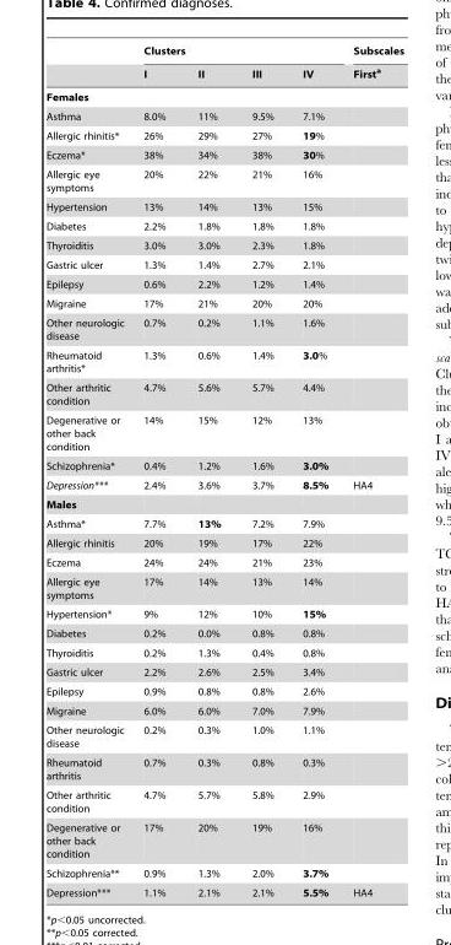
<table><thead><tr><td rowspan="2"></td><td colspan="4">Clusters</td><td rowspan="2">Subscales First<sup>a</sup></td></tr><tr><td>I</td><td>II</td><td>III</td><td>IV</td></tr></thead><tbody><tr><td colspan="6">Females</td></tr><tr><td>Asthma</td><td>8.0%</td><td>11%</td><td>9.5%</td><td>7.1%</td><td></td></tr><tr><td>Allergic rhinitis*</td><td>26%</td><td>29%</td><td>27%</td><td>19%</td><td></td></tr><tr><td>Eczema*</td><td>38%</td><td>34%</td><td>38%</td><td>30%</td><td></td></tr><tr><td>Allergic eye symptoms</td><td>20%</td><td>22%</td><td>21%</td><td>16%</td><td></td></tr><tr><td>Hypertension</td><td>13%</td><td>14%</td><td>13%</td><td>15%</td><td></td></tr><tr><td>Diabetes</td><td>2.2%</td><td>1.8%</td><td>1.8%</td><td>1.8%</td><td></td></tr><tr><td>Thyroiditis</td><td>3.0%</td><td>3.0%</td><td>2.3%</td><td>1.8%</td><td></td></tr><tr><td>Gastric ulcer</td><td>1.3%</td><td>1.4%</td><td>2.7%</td><td>2.1%</td><td></td></tr><tr><td>Epilepsy</td><td>0.6%</td><td>2.2%</td><td>1.2%</td><td>1.4%</td><td></td></tr><tr><td>Migraine</td><td>17%</td><td>21%</td><td>20%</td><td>20%</td><td></td></tr><tr><td>Other neurologic disease</td><td>0.7%</td><td>0.2%</td><td>1.1%</td><td>1.6%</td><td></td></tr><tr><td>Rheumatoid arthritis*</td><td>1.3%</td><td>0.6%</td><td>1.4%</td><td>3.0%</td><td></td></tr><tr><td>Other arthritic condition</td><td>4.7%</td><td>5.6%</td><td>5.7%</td><td>4.4%</td><td></td></tr><tr><td>Degenerative or other back condition</td><td>14%</td><td>15%</td><td>12%</td><td>13%</td><td></td></tr><tr><td>Schizophrenia*</td><td>0.4%</td><td>1.2%</td><td>1.6%</td><td>3.0%</td><td></td></tr><tr><td>Depression***</td><td>2.4%</td><td>3.6%</td><td>3.7%</td><td>8.5%</td><td>HA4</td></tr><tr><td colspan="6">Males</td></tr><tr><td>Asthma*</td><td>7.7%</td><td>13%</td><td>7.2%</td><td>7.9%</td><td></td></tr><tr><td>Allergic rhinitis</td><td>20%</td><td>19%</td><td>17%</td><td>22%</td><td></td></tr><tr><td>Eczema</td><td>24%</td><td>24%</td><td>21%</td><td>23%</td><td></td></tr><tr><td>Allergic eye symptoms</td><td>17%</td><td>14%</td><td>13%</td><td>14%</td><td></td></tr><tr><td>Hypertension*</td><td>9%</td><td>12%</td><td>10%</td><td>15%</td><td></td></tr><tr><td>Diabetes</td><td>0.2%</td><td>0.0%</td><td>0.8%</td><td>0.8%</td><td></td></tr><tr><td>Thyroiditis</td><td>0.2%</td><td>1.3%</td><td>0.4%</td><td>0.8%</td><td></td></tr><tr><td>Gastric ulcer</td><td>2.2%</td><td>2.6%</td><td>2.5%</td><td>3.4%</td><td></td></tr><tr><td>Epilepsy</td><td>0.9%</td><td>0.8%</td><td>0.8%</td><td>2.6%</td><td></td></tr><tr><td>Migraine</td><td>6.0%</td><td>6.0%</td><td>7.0%</td><td>7.9%</td><td></td></tr><tr><td>Other neurologic disease</td><td>0.2%</td><td>0.3%</td><td>1.0%</td><td>1.1%</td><td></td></tr><tr><td>Rheumatoid arthritis</td><td>0.7%</td><td>0.3%</td><td>0.8%</td><td>0.3%</td><td></td></tr><tr><td>Other arthritic condition</td><td>4.7%</td><td>5.7%</td><td>5.8%</td><td>2.9%</td><td></td></tr><tr><td>Degenerative or other back condition</td><td>17%</td><td>20%</td><td>19%</td><td>16%</td><td></td></tr><tr><td>Schizophrenia**</td><td>0.9%</td><td>1.3%</td><td>2.0%</td><td>3.7%</td><td></td></tr><tr><td>Depression***</td><td>1.1%</td><td>2.1%</td><td>2.1%</td><td>5.5%</td><td>HA4</td></tr></tbody></table>